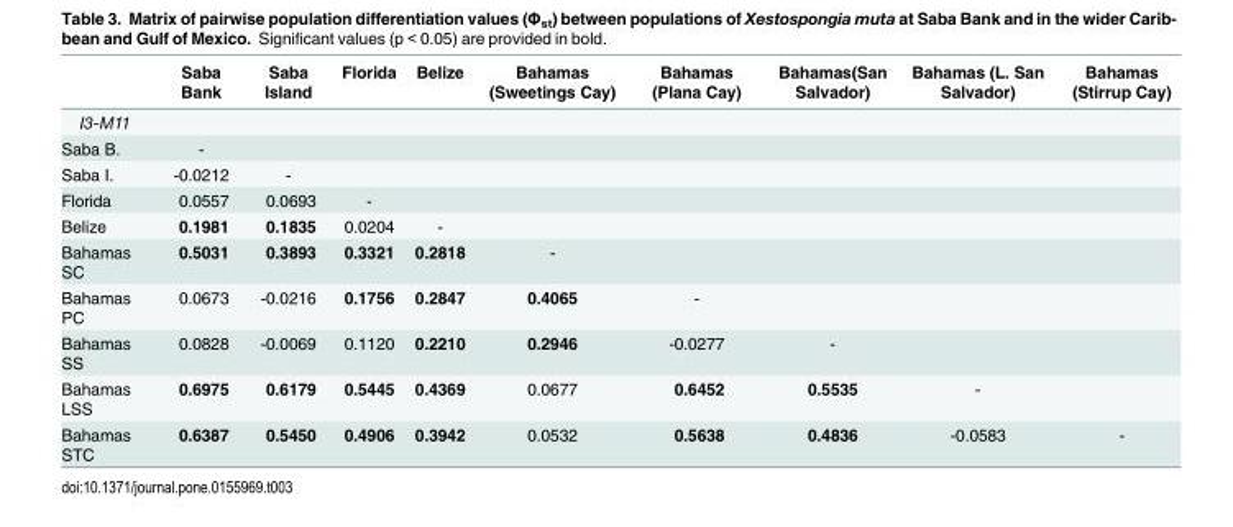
<table><thead><tr><td></td><td>Saba Bank</td><td>Saba Island</td><td>Florida</td><td>Belize</td><td>Bahamas (Sweetings Cay)</td><td>Bahamas (Plana Cay)</td><td>Bahamas(San Salvador)</td><td>Bahamas (L. San Salvador)</td><td>Bahamas (Stirrup Cay)</td></tr></thead><tbody><tr><td colspan="10">I3-M11</td></tr><tr><td>Saba B.</td><td>-</td><td></td><td></td><td></td><td></td><td></td><td></td><td></td><td></td></tr><tr><td>Saba I.</td><td>-0.0212</td><td>-</td><td></td><td></td><td></td><td></td><td></td><td></td><td></td></tr><tr><td>Florida</td><td>0.0557</td><td>0.0693</td><td>-</td><td></td><td></td><td></td><td></td><td></td><td></td></tr><tr><td>Belize</td><td>0.1981</td><td>0.1835</td><td>0.0204</td><td>-</td><td></td><td></td><td></td><td></td><td></td></tr><tr><td>Bahamas SC</td><td>0.5031</td><td>0.3893</td><td>0.3321</td><td>0.2818</td><td>-</td><td></td><td></td><td></td><td></td></tr><tr><td>Bahamas PC</td><td>0.0673</td><td>-0.0216</td><td>0.1756</td><td>0.2847</td><td>0.4065</td><td>-</td><td></td><td></td><td></td></tr><tr><td>Bahamas SS</td><td>0.0828</td><td>-0.0069</td><td>0.1120</td><td>0.2210</td><td>0.2946</td><td>-0.0277</td><td>-</td><td></td><td></td></tr><tr><td>Bahamas LSS</td><td>0.6975</td><td>0.6179</td><td>0.5445</td><td>0.4369</td><td>0.0677</td><td>0.6452</td><td>0.5535</td><td>-</td><td></td></tr><tr><td>Bahamas STC</td><td>0.6387</td><td>0.5450</td><td>0.4906</td><td>0.3942</td><td>0.0532</td><td>0.5638</td><td>0.4836</td><td>-0.0583</td><td>-</td></tr></tbody></table>